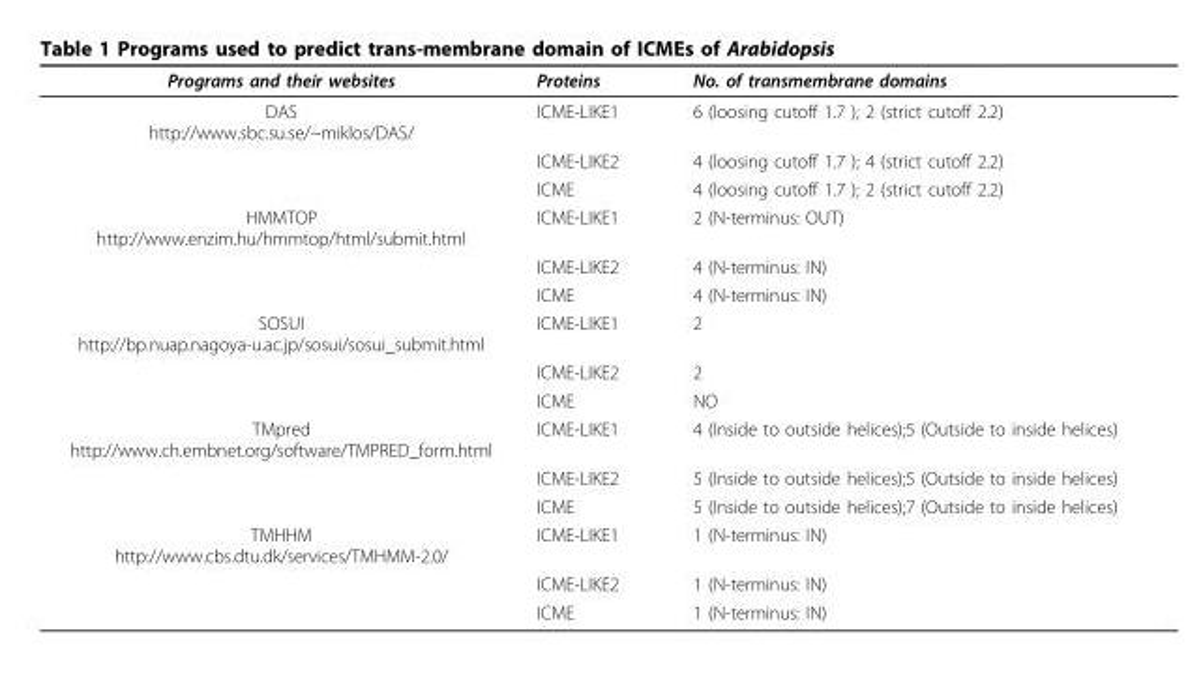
<table><thead><tr><td>Programs and their websites</td><td>Proteins</td><td>No. of transmembrane domains</td></tr></thead><tbody><tr><td rowspan="3">DAS http://www.sbc.su.se/~miklos/DAS/</td><td>ICME-LIKE1</td><td>6 (loosing cutoff 1.7 ); 2 (strict cutoff 2.2)</td></tr><tr><td>ICME-LIKE2</td><td>4 (loosing cutoff 1.7 ); 4 (strict cutoff 2.2)</td></tr><tr><td>ICME</td><td>4 (loosing cutoff 1.7 ); 2 (strict cutoff 2.2)</td></tr><tr><td rowspan="3">HMMTOP http://www.enzim.hu/hmmtop/html/submit.html</td><td>ICME-LIKE1</td><td>2 (N-terminus: OUT)</td></tr><tr><td>ICME-LIKE2</td><td>4 (N-terminus: IN)</td></tr><tr><td>ICME</td><td>4 (N-terminus: IN)</td></tr><tr><td rowspan="3">SOSUI http://bp.nuap.nagoya-u.ac.jp/sosui/sosui_submit.html</td><td>ICME-LIKE1</td><td>2</td></tr><tr><td>ICME-LIKE2</td><td>2</td></tr><tr><td>ICME</td><td>NO</td></tr><tr><td rowspan="3">TMpred http://www.ch.embnet.org/software/TMPRED_form.html</td><td>ICME-LIKE1</td><td>4 (Inside to outside helices);5 (Outside to inside helices)</td></tr><tr><td>ICME-LIKE2</td><td>5 (Inside to outside helices);5 (Outside to inside helices)</td></tr><tr><td>ICME</td><td>5 (Inside to outside helices);7 (Outside to inside helices)</td></tr><tr><td rowspan="3">TMHHM http://www.cbs.dtu.dk/services/TMHMM-2.0/</td><td>ICME-LIKE1</td><td>1 (N-terminus: IN)</td></tr><tr><td>ICME-LIKE2</td><td>1 (N-terminus: IN)</td></tr><tr><td>ICME</td><td>1 (N-terminus: IN)</td></tr></tbody></table>